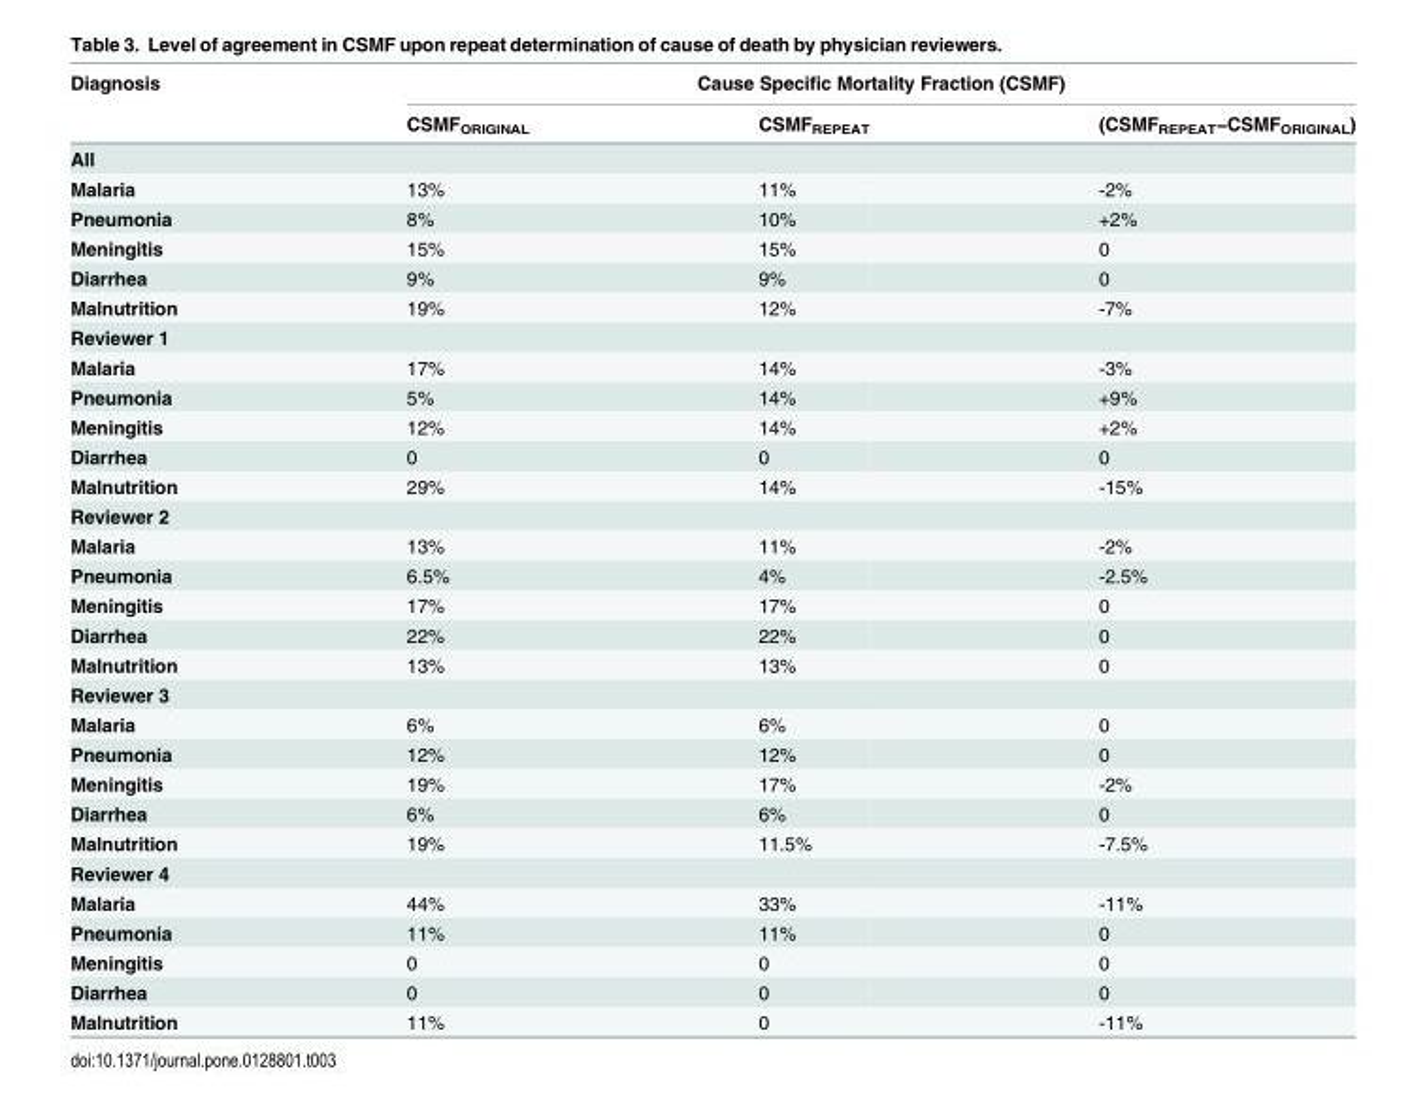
<table><thead><tr><td rowspan="2">Diagnosis</td><td colspan="3">Cause Specific Mortality Fraction (CSMF)</td></tr><tr><td>CSMF<sub>ORIGINAL</sub></td><td>CSMF<sub>REPEAT</sub></td><td>(CSMF<sub>REPEAT</sub>−CSMF<sub>ORIGINAL</sub>)</td></tr></thead><tbody><tr><td colspan="4">All</td></tr><tr><td>Malaria</td><td>13%</td><td>11%</td><td>-2%</td></tr><tr><td>Pneumonia</td><td>8%</td><td>10%</td><td>+2%</td></tr><tr><td>Meningitis</td><td>15%</td><td>15%</td><td>0</td></tr><tr><td>Diarrhea</td><td>9%</td><td>9%</td><td>0</td></tr><tr><td>Malnutrition</td><td>19%</td><td>12%</td><td>-7%</td></tr><tr><td colspan="4">Reviewer 1</td></tr><tr><td>Malaria</td><td>17%</td><td>14%</td><td>-3%</td></tr><tr><td>Pneumonia</td><td>5%</td><td>14%</td><td>+9%</td></tr><tr><td>Meningitis</td><td>12%</td><td>14%</td><td>+2%</td></tr><tr><td>Diarrhea</td><td>0</td><td>0</td><td>0</td></tr><tr><td>Malnutrition</td><td>29%</td><td>14%</td><td>-15%</td></tr><tr><td colspan="4">Reviewer 2</td></tr><tr><td>Malaria</td><td>13%</td><td>11%</td><td>-2%</td></tr><tr><td>Pneumonia</td><td>6.5%</td><td>4%</td><td>-2.5%</td></tr><tr><td>Meningitis</td><td>17%</td><td>17%</td><td>0</td></tr><tr><td>Diarrhea</td><td>22%</td><td>22%</td><td>0</td></tr><tr><td>Malnutrition</td><td>13%</td><td>13%</td><td>0</td></tr><tr><td colspan="4">Reviewer 3</td></tr><tr><td>Malaria</td><td>6%</td><td>6%</td><td>0</td></tr><tr><td>Pneumonia</td><td>12%</td><td>12%</td><td>0</td></tr><tr><td>Meningitis</td><td>19%</td><td>17%</td><td>-2%</td></tr><tr><td>Diarrhea</td><td>6%</td><td>6%</td><td>0</td></tr><tr><td>Malnutrition</td><td>19%</td><td>11.5%</td><td>-7.5%</td></tr><tr><td colspan="4">Reviewer 4</td></tr><tr><td>Malaria</td><td>44%</td><td>33%</td><td>-11%</td></tr><tr><td>Pneumonia</td><td>11%</td><td>11%</td><td>0</td></tr><tr><td>Meningitis</td><td>0</td><td>0</td><td>0</td></tr><tr><td>Diarrhea</td><td>0</td><td>0</td><td>0</td></tr><tr><td>Malnutrition</td><td>11%</td><td>0</td><td>-11%</td></tr></tbody></table>